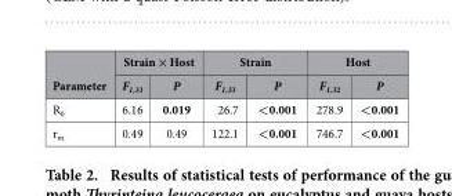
<table><thead><tr><td rowspan="2">Parameter</td><td colspan="2">Strain × Host</td><td colspan="2">Strain</td><td colspan="2">Host</td></tr><tr><td>F<sub>1,31</sub></td><td>P</td><td>F<sub>1,33</sub></td><td>P</td><td>F<sub>1,32</sub></td><td>P</td></tr></thead><tbody><tr><td>R<sub>0</sub></td><td>6.16</td><td>0.019</td><td>26.7</td><td>&lt;0.001</td><td>278.9</td><td>&lt;0.001</td></tr><tr><td>r<sub>m</sub></td><td>0.49</td><td>0.49</td><td>122.1</td><td>&lt;0.001</td><td>746.7</td><td>&lt;0.001</td></tr></tbody></table>